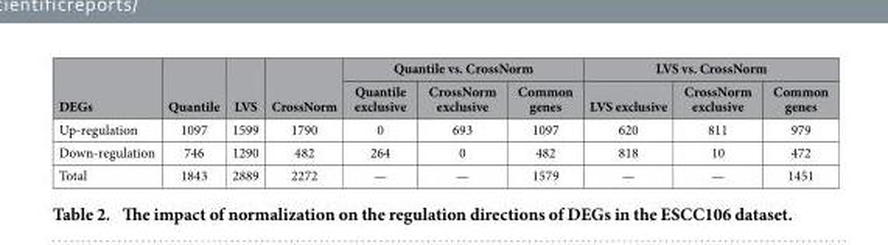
<table><thead><tr><td rowspan="2">DEGs</td><td rowspan="2">Quantile</td><td rowspan="2">LVS</td><td rowspan="2">CrossNorm</td><td colspan="3">Quantile vs. CrossNorm</td><td colspan="3">LVS vs. CrossNorm</td></tr><tr><td>Quantile exclusive</td><td>CrossNorm exclusive</td><td>Common genes</td><td>LVS exclusive</td><td>CrossNorm exclusive</td><td>Common genes</td></tr></thead><tbody><tr><td>Up-regulation</td><td>1097</td><td>1599</td><td>1790</td><td>0</td><td>693</td><td>1097</td><td>620</td><td>811</td><td>979</td></tr><tr><td>Down-regulation</td><td>746</td><td>1290</td><td>482</td><td>264</td><td>0</td><td>482</td><td>818</td><td>10</td><td>472</td></tr><tr><td>Total</td><td>1843</td><td>2889</td><td>2272</td><td>—</td><td>—</td><td>1579</td><td>—</td><td>—</td><td>1451</td></tr></tbody></table>